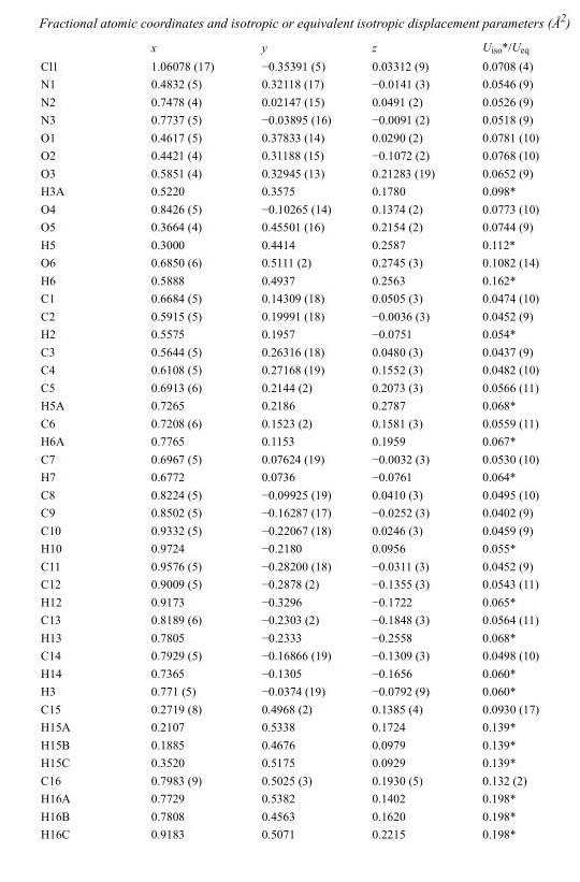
<table><thead><tr><td></td><td>x</td><td>y</td><td>z</td><td>U<sub>iso</sub>*/U<sub>eq</sub></td></tr></thead><tbody><tr><td>Cl1</td><td>1.06078 (17)</td><td>−0.35391 (5)</td><td>0.03312 (9)</td><td>0.0708 (4)</td></tr><tr><td>N1</td><td>0.4832 (5)</td><td>0.32118 (17)</td><td>−0.0141 (3)</td><td>0.0546 (9)</td></tr><tr><td>N2</td><td>0.7478 (4)</td><td>0.02147 (15)</td><td>0.0491 (2)</td><td>0.0526 (9)</td></tr><tr><td>N3</td><td>0.7737 (5)</td><td>−0.03895 (16)</td><td>−0.0091 (2)</td><td>0.0518 (9)</td></tr><tr><td>O1</td><td>0.4617 (5)</td><td>0.37833 (14)</td><td>0.0290 (2)</td><td>0.0781 (10)</td></tr><tr><td>O2</td><td>0.4421 (4)</td><td>0.31188 (15)</td><td>−0.1072 (2)</td><td>0.0768 (10)</td></tr><tr><td>O3</td><td>0.5851 (4)</td><td>0.32945 (13)</td><td>0.21283 (19)</td><td>0.0652 (9)</td></tr><tr><td>H3A</td><td>0.5220</td><td>0.3575</td><td>0.1780</td><td>0.098*</td></tr><tr><td>O4</td><td>0.8426 (5)</td><td>−0.10265 (14)</td><td>0.1374 (2)</td><td>0.0773 (10)</td></tr><tr><td>O5</td><td>0.3664 (4)</td><td>0.45501 (16)</td><td>0.2154 (2)</td><td>0.0744 (9)</td></tr><tr><td>H5</td><td>0.3000</td><td>0.4414</td><td>0.2587</td><td>0.112*</td></tr><tr><td>O6</td><td>0.6850 (6)</td><td>0.5111 (2)</td><td>0.2745 (3)</td><td>0.1082 (14)</td></tr><tr><td>H6</td><td>0.5888</td><td>0.4937</td><td>0.2563</td><td>0.162*</td></tr><tr><td>C1</td><td>0.6684 (5)</td><td>0.14309 (18)</td><td>0.0505 (3)</td><td>0.0474 (10)</td></tr><tr><td>C2</td><td>0.5915 (5)</td><td>0.19991 (18)</td><td>−0.0036 (3)</td><td>0.0452 (9)</td></tr><tr><td>H2</td><td>0.5575</td><td>0.1957</td><td>−0.0751</td><td>0.054*</td></tr><tr><td>C3</td><td>0.5644 (5)</td><td>0.26316 (18)</td><td>0.0480 (3)</td><td>0.0437 (9)</td></tr><tr><td>C4</td><td>0.6108 (5)</td><td>0.27168 (19)</td><td>0.1552 (3)</td><td>0.0482 (10)</td></tr><tr><td>C5</td><td>0.6913 (6)</td><td>0.2144 (2)</td><td>0.2073 (3)</td><td>0.0566 (11)</td></tr><tr><td>H5A</td><td>0.7265</td><td>0.2186</td><td>0.2787</td><td>0.068*</td></tr><tr><td>C6</td><td>0.7208 (6)</td><td>0.1523 (2)</td><td>0.1581 (3)</td><td>0.0559 (11)</td></tr><tr><td>H6A</td><td>0.7765</td><td>0.1153</td><td>0.1959</td><td>0.067*</td></tr><tr><td>C7</td><td>0.6967 (5)</td><td>0.07624 (19)</td><td>−0.0032 (3)</td><td>0.0530 (10)</td></tr><tr><td>H7</td><td>0.6772</td><td>0.0736</td><td>−0.0761</td><td>0.064*</td></tr><tr><td>C8</td><td>0.8224 (5)</td><td>−0.09925 (19)</td><td>0.0410 (3)</td><td>0.0495 (10)</td></tr><tr><td>C9</td><td>0.8502 (5)</td><td>−0.16287 (17)</td><td>−0.0252 (3)</td><td>0.0402 (9)</td></tr><tr><td>C10</td><td>0.9332 (5)</td><td>−0.22067 (18)</td><td>0.0246 (3)</td><td>0.0459 (9)</td></tr><tr><td>H10</td><td>0.9724</td><td>−0.2180</td><td>0.0956</td><td>0.055*</td></tr><tr><td>C11</td><td>0.9576 (5)</td><td>−0.28200 (18)</td><td>−0.0311 (3)</td><td>0.0452 (9)</td></tr><tr><td>C12</td><td>0.9009 (5)</td><td>−0.2878 (2)</td><td>−0.1355 (3)</td><td>0.0543 (11)</td></tr><tr><td>H12</td><td>0.9173</td><td>−0.3296</td><td>−0.1722</td><td>0.065*</td></tr><tr><td>C13</td><td>0.8189 (6)</td><td>−0.2303 (2)</td><td>−0.1848 (3)</td><td>0.0564 (11)</td></tr><tr><td>H13</td><td>0.7805</td><td>−0.2333</td><td>−0.2558</td><td>0.068*</td></tr><tr><td>C14</td><td>0.7929 (5)</td><td>−0.16866 (19)</td><td>−0.1309 (3)</td><td>0.0498 (10)</td></tr><tr><td>H14</td><td>0.7365</td><td>−0.1305</td><td>−0.1656</td><td>0.060*</td></tr><tr><td>H3</td><td>0.771 (5)</td><td>−0.0374 (19)</td><td>−0.0792 (9)</td><td>0.060*</td></tr><tr><td>C15</td><td>0.2719 (8)</td><td>0.4968 (2)</td><td>0.1385 (4)</td><td>0.0930 (17)</td></tr><tr><td>H15A</td><td>0.2107</td><td>0.5338</td><td>0.1724</td><td>0.139*</td></tr><tr><td>H15B</td><td>0.1885</td><td>0.4676</td><td>0.0979</td><td>0.139*</td></tr><tr><td>H15C</td><td>0.3520</td><td>0.5175</td><td>0.0929</td><td>0.139*</td></tr><tr><td>C16</td><td>0.7983 (9)</td><td>0.5025 (3)</td><td>0.1930 (5)</td><td>0.132 (2)</td></tr><tr><td>H16A</td><td>0.7729</td><td>0.5382</td><td>0.1402</td><td>0.198*</td></tr><tr><td>H16B</td><td>0.7808</td><td>0.4563</td><td>0.1620</td><td>0.198*</td></tr><tr><td>H16C</td><td>0.9183</td><td>0.5071</td><td>0.2215</td><td>0.198*</td></tr></tbody></table>